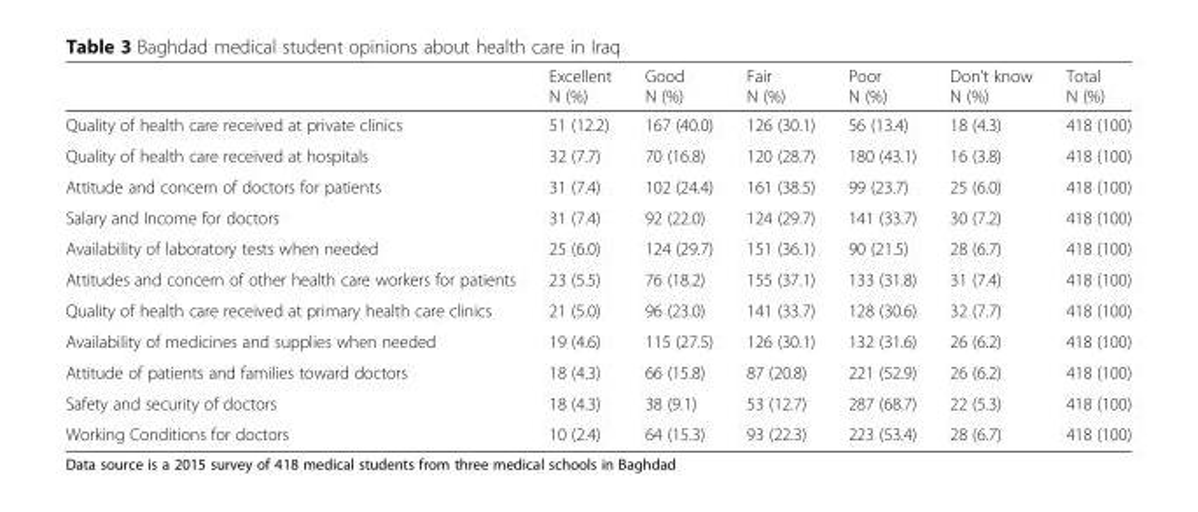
<table><thead><tr><td></td><td>Excellent N (%)</td><td>Good N (%)</td><td>Fair N (%)</td><td>Poor N (%)</td><td>Don’t know N (%)</td><td>Total N (%)</td></tr></thead><tbody><tr><td>Quality of health care received at private clinics</td><td>51 (12.2)</td><td>167 (40.0)</td><td>126 (30.1)</td><td>56 (13.4)</td><td>18 (4.3)</td><td>418 (100)</td></tr><tr><td>Quality of health care received at hospitals</td><td>32 (7.7)</td><td>70 (16.8)</td><td>120 (28.7)</td><td>180 (43.1)</td><td>16 (3.8)</td><td>418 (100)</td></tr><tr><td>Attitude and concern of doctors for patients</td><td>31 (7.4)</td><td>102 (24.4)</td><td>161 (38.5)</td><td>99 (23.7)</td><td>25 (6.0)</td><td>418 (100)</td></tr><tr><td>Salary and Income for doctors</td><td>31 (7.4)</td><td>92 (22.0)</td><td>124 (29.7)</td><td>141 (33.7)</td><td>30 (7.2)</td><td>418 (100)</td></tr><tr><td>Availability of laboratory tests when needed</td><td>25 (6.0)</td><td>124 (29.7)</td><td>151 (36.1)</td><td>90 (21.5)</td><td>28 (6.7)</td><td>418 (100)</td></tr><tr><td>Attitudes and concern of other health care workers for patients</td><td>23 (5.5)</td><td>76 (18.2)</td><td>155 (37.1)</td><td>133 (31.8)</td><td>31 (7.4)</td><td>418 (100)</td></tr><tr><td>Quality of health care received at primary health care clinics</td><td>21 (5.0)</td><td>96 (23.0)</td><td>141 (33.7)</td><td>128 (30.6)</td><td>32 (7.7)</td><td>418 (100)</td></tr><tr><td>Availability of medicines and supplies when needed</td><td>19 (4.6)</td><td>115 (27.5)</td><td>126 (30.1)</td><td>132 (31.6)</td><td>26 (6.2)</td><td>418 (100)</td></tr><tr><td>Attitude of patients and families toward doctors</td><td>18 (4.3)</td><td>66 (15.8)</td><td>87 (20.8)</td><td>221 (52.9)</td><td>26 (6.2)</td><td>418 (100)</td></tr><tr><td>Safety and security of doctors</td><td>18 (4.3)</td><td>38 (9.1)</td><td>53 (12.7)</td><td>287 (68.7)</td><td>22 (5.3)</td><td>418 (100)</td></tr><tr><td>Working Conditions for doctors</td><td>10 (2.4)</td><td>64 (15.3)</td><td>93 (22.3)</td><td>223 (53.4)</td><td>28 (6.7)</td><td>418 (100)</td></tr></tbody></table>